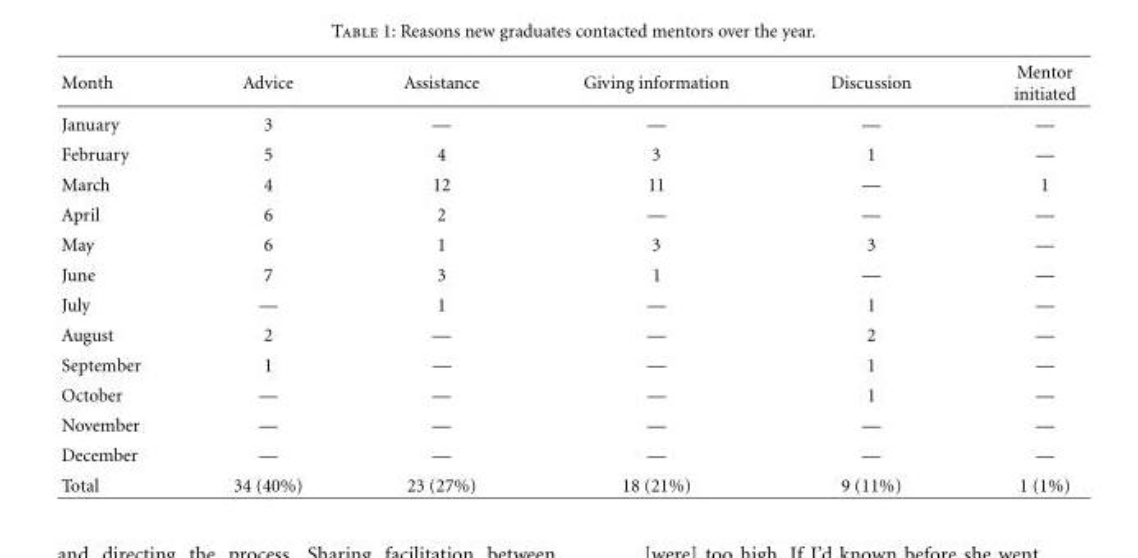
<table><thead><tr><td>Month</td><td>Advice</td><td>Assistance</td><td>Giving information</td><td>Discussion</td><td>Mentor initiated</td></tr></thead><tbody><tr><td>January</td><td>3</td><td>—</td><td>—</td><td>—</td><td>—</td></tr><tr><td>February</td><td>5</td><td>4</td><td>3</td><td>1</td><td>—</td></tr><tr><td>March</td><td>4</td><td>12</td><td>11</td><td>—</td><td>1</td></tr><tr><td>April</td><td>6</td><td>2</td><td>—</td><td>—</td><td>—</td></tr><tr><td>May</td><td>6</td><td>1</td><td>3</td><td>3</td><td>—</td></tr><tr><td>June</td><td>7</td><td>3</td><td>1</td><td>—</td><td>—</td></tr><tr><td>July</td><td>—</td><td>1</td><td>—</td><td>1</td><td>—</td></tr><tr><td>August</td><td>2</td><td>—</td><td>—</td><td>2</td><td>—</td></tr><tr><td>September</td><td>1</td><td>—</td><td>—</td><td>1</td><td>—</td></tr><tr><td>October</td><td>—</td><td>—</td><td>—</td><td>1</td><td>—</td></tr><tr><td>November</td><td>—</td><td>—</td><td>—</td><td>—</td><td>—</td></tr><tr><td>December</td><td>—</td><td>—</td><td>—</td><td>—</td><td>—</td></tr><tr><td>Total</td><td>34 (40%)</td><td>23 (27%)</td><td>18 (21%)</td><td>9 (11%)</td><td>1 (1%)</td></tr></tbody></table>